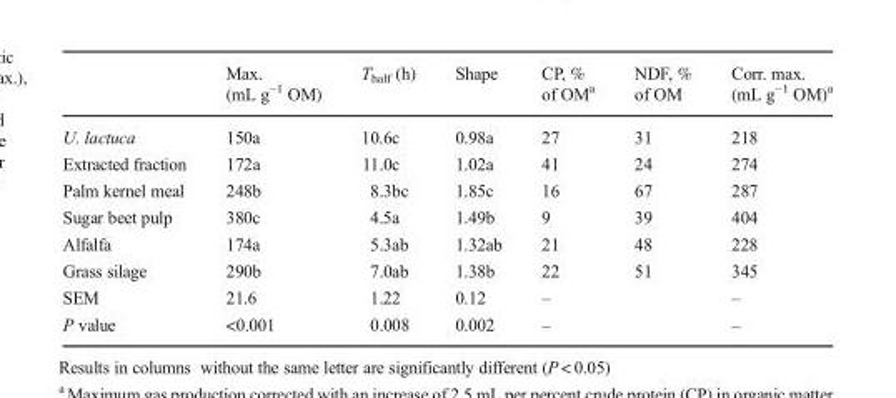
<table><thead><tr><td></td><td>Max. (mL g<sup>−1</sup> OM)</td><td>T<sub>half</sub> (h)</td><td>Shape</td><td>CP, % of OM<sup>a</sup></td><td>NDF, % of OM</td><td>Corr. max. (mL g<sup>−1</sup> OM)<sup>a</sup></td></tr></thead><tbody><tr><td>U. lactuca</td><td>150a</td><td>10.6c</td><td>0.98a</td><td>27</td><td>31</td><td>218</td></tr><tr><td>Extracted fraction</td><td>172a</td><td>11.0c</td><td>1.02a</td><td>41</td><td>24</td><td>274</td></tr><tr><td>Palm kernel meal</td><td>248b</td><td>8.3bc</td><td>1.85c</td><td>16</td><td>67</td><td>287</td></tr><tr><td>Sugar beet pulp</td><td>380c</td><td>4.5a</td><td>1.49b</td><td>9</td><td>39</td><td>404</td></tr><tr><td>Alfalfa</td><td>174a</td><td>5.3ab</td><td>1.32ab</td><td>21</td><td>48</td><td>228</td></tr><tr><td>Grass silage</td><td>290b</td><td>7.0ab</td><td>1.38b</td><td>22</td><td>51</td><td>345</td></tr><tr><td>SEM</td><td>21.6</td><td>1.22</td><td>0.12</td><td>–</td><td></td><td>–</td></tr><tr><td>P value</td><td>&lt;0.001</td><td>0.008</td><td>0.002</td><td>–</td><td></td><td>–</td></tr></tbody></table>